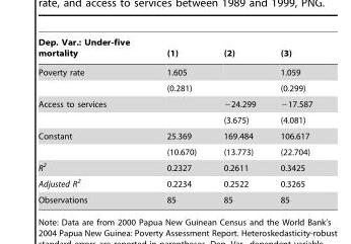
<table><thead><tr><td>Dep. Var.: Under-five mortality</td><td>(1)</td><td>(2)</td><td>(3)</td></tr></thead><tbody><tr><td rowspan="2">Poverty rate</td><td>1.605</td><td></td><td>1.059</td></tr><tr><td>(0.281)</td><td></td><td>(0.299)</td></tr><tr><td rowspan="2">Access to services</td><td></td><td>−24.299</td><td>−17.587</td></tr><tr><td></td><td>(3.675)</td><td>(4.081)</td></tr><tr><td rowspan="2">Constant</td><td>25.369</td><td>169.484</td><td>106.617</td></tr><tr><td>(10.670)</td><td>(13.773)</td><td>(22.704)</td></tr><tr><td>R<sup>2</sup></td><td>0.2327</td><td>0.2611</td><td>0.3425</td></tr><tr><td>Adjusted R<sup>2</sup></td><td>0.2234</td><td>0.2522</td><td>0.3265</td></tr><tr><td>Observations</td><td>85</td><td>85</td><td>85</td></tr></tbody></table>